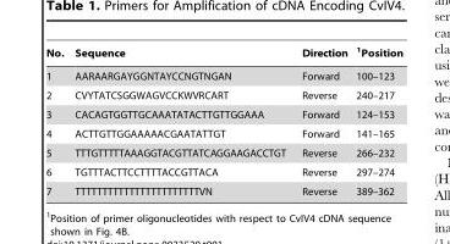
<table><thead><tr><td>No.</td><td>Sequence</td><td>Direction</td><td>1Position</td></tr></thead><tbody><tr><td>1</td><td>AARAARGAYGGNTAYCCNGTNGAN</td><td>Forward</td><td>100–123</td></tr><tr><td>2</td><td>CVYTATCSGGWAGVCCKWVRCART</td><td>Reverse</td><td>240–217</td></tr><tr><td>3</td><td>CACAGTGGTTGCAAATATACTTGTTGGAAA</td><td>Forward</td><td>124–153</td></tr><tr><td>4</td><td>ACTTGTTGGAAAAACGAATATTGT</td><td>Forward</td><td>141–165</td></tr><tr><td>5</td><td>TTTGTTTTTAAAGGTACGTTATCAGGAAGACCTGT</td><td>Reverse</td><td>266–232</td></tr><tr><td>6</td><td>TGTTTACTTCCTTTTACCGTTACA</td><td>Reverse</td><td>297–274</td></tr><tr><td>7</td><td>TTTTTTTTTTTTTTTTTTTTTTTVN</td><td>Reverse</td><td>389–362</td></tr></tbody></table>